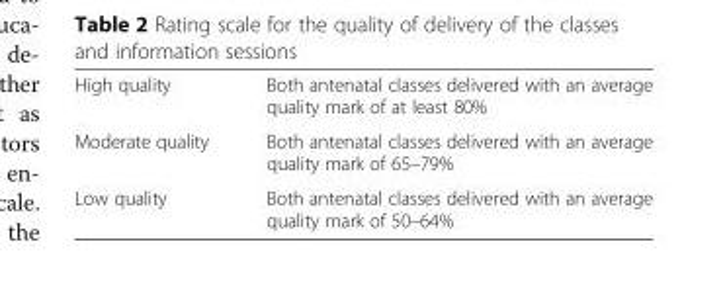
<table><tbody><tr><td>High quality</td><td>Both antenatal classes delivered with an average quality mark of at least 80%</td></tr><tr><td>Moderate quality</td><td>Both antenatal classes delivered with an average quality mark of 65–79%</td></tr><tr><td>Low quality</td><td>Both antenatal classes delivered with an average quality mark of 50–64%</td></tr></tbody></table>